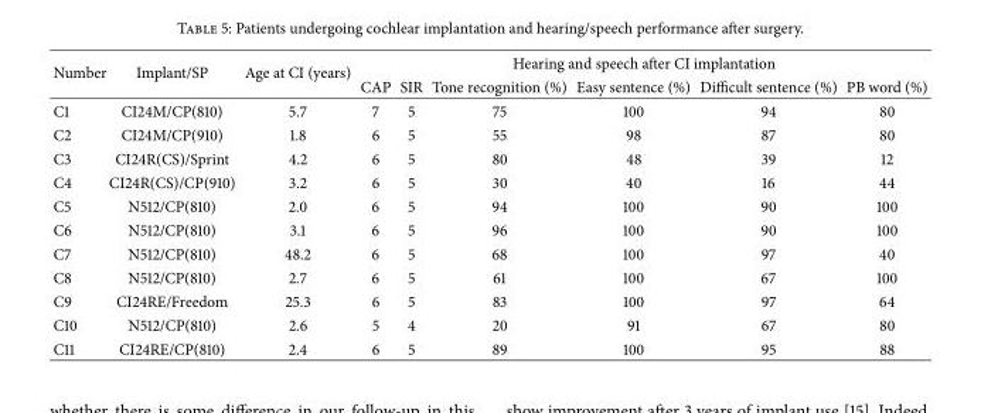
<table><thead><tr><td rowspan="2">Number</td><td rowspan="2">Implant/SP</td><td rowspan="2">Age at CI (years)</td><td colspan="6">Hearing and speech after CI implantation</td></tr><tr><td>CAP</td><td>SIR</td><td>Tone recognition (%)</td><td>Easy sentence (%)</td><td>Difficult sentence (%)</td><td>PB word (%)</td></tr></thead><tbody><tr><td>C1</td><td>CI24M/CP(810)</td><td>5.7</td><td>7</td><td>5</td><td>75</td><td>100</td><td>94</td><td>80</td></tr><tr><td>C2</td><td>CI24M/CP(910)</td><td>1.8</td><td>6</td><td>5</td><td>55</td><td>98</td><td>87</td><td>80</td></tr><tr><td>C3</td><td>CI24R(CS)/Sprint</td><td>4.2</td><td>6</td><td>5</td><td>80</td><td>48</td><td>39</td><td>12</td></tr><tr><td>C4</td><td>CI24R(CS)/CP(910)</td><td>3.2</td><td>6</td><td>5</td><td>30</td><td>40</td><td>16</td><td>44</td></tr><tr><td>C5</td><td>N512/CP(810)</td><td>2.0</td><td>6</td><td>5</td><td>94</td><td>100</td><td>90</td><td>100</td></tr><tr><td>C6</td><td>N512/CP(810)</td><td>3.1</td><td>6</td><td>5</td><td>96</td><td>100</td><td>90</td><td>100</td></tr><tr><td>C7</td><td>N512/CP(810)</td><td>48.2</td><td>6</td><td>5</td><td>68</td><td>100</td><td>97</td><td>40</td></tr><tr><td>C8</td><td>N512/CP(810)</td><td>2.7</td><td>6</td><td>5</td><td>61</td><td>100</td><td>67</td><td>100</td></tr><tr><td>C9</td><td>CI24RE/Freedom</td><td>25.3</td><td>6</td><td>5</td><td>83</td><td>100</td><td>97</td><td>64</td></tr><tr><td>C10</td><td>N512/CP(810)</td><td>2.6</td><td>5</td><td>4</td><td>20</td><td>91</td><td>67</td><td>80</td></tr><tr><td>C11</td><td>CI24RE/CP(810)</td><td>2.4</td><td>6</td><td>5</td><td>89</td><td>100</td><td>95</td><td>88</td></tr></tbody></table>